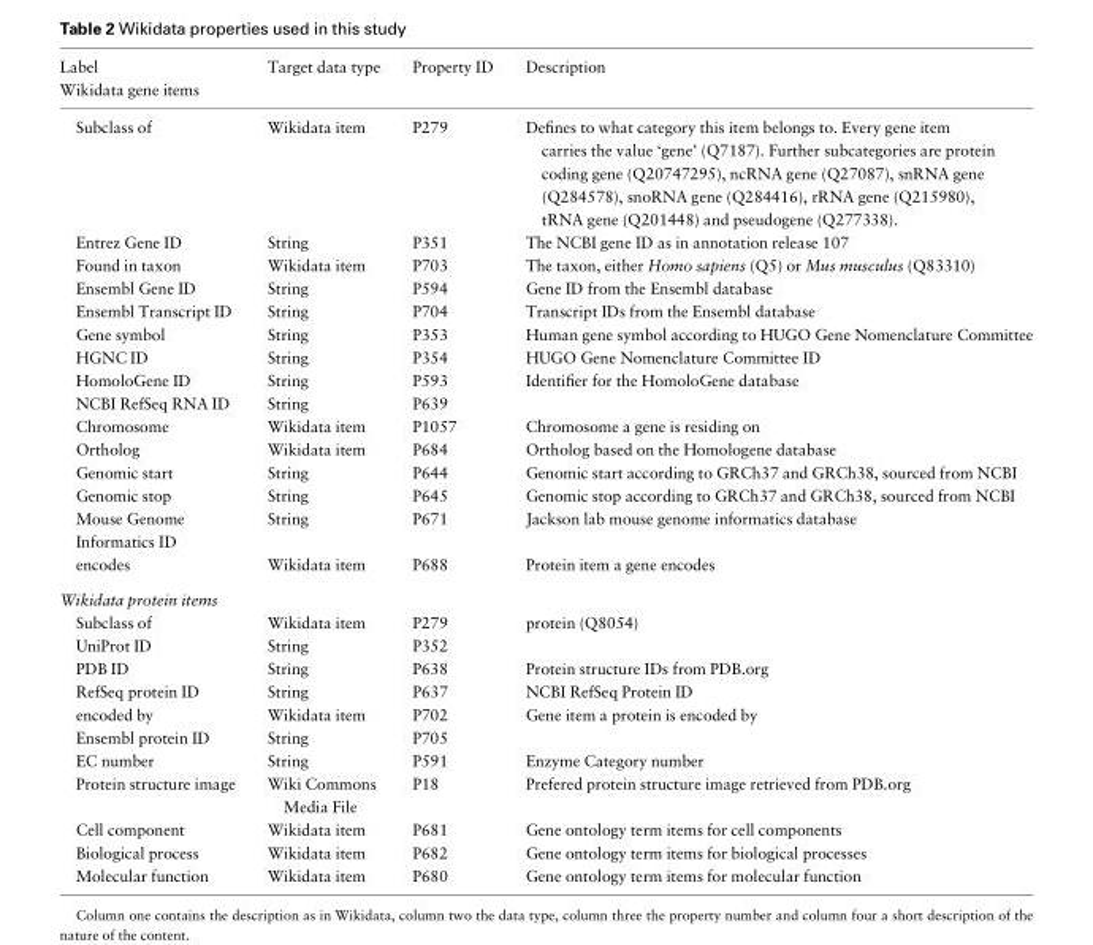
<table><thead><tr><td>Label</td><td>Target data type</td><td>Property ID</td><td>Description</td></tr><tr><td colspan="4">Wikidata gene items</td></tr></thead><tbody><tr><td>Subclass of</td><td>Wikidata item</td><td>P279</td><td>Defines to what category this item belongs to. Every gene item carries the value ‘gene’ (Q7187). Further subcategories are protein coding gene (Q20747295), ncRNA gene (Q27087), snRNA gene (Q284578), snoRNA gene (Q284416), rRNA gene (Q215980), tRNA gene (Q201448) and pseudogene (Q277338).</td></tr><tr><td>Entrez Gene ID</td><td>String</td><td>P351</td><td>The NCBI gene ID as in annotation release 107</td></tr><tr><td>Found in taxon</td><td>Wikidata item</td><td>P703</td><td>The taxon, either Homo sapiens (Q5) or Mus musculus (Q83310)</td></tr><tr><td>Ensembl Gene ID</td><td>String</td><td>P594</td><td>Gene ID from the Ensembl database</td></tr><tr><td>Ensembl Transcript ID</td><td>String</td><td>P704</td><td>Transcript IDs from the Ensembl database</td></tr><tr><td>Gene symbol</td><td>String</td><td>P353</td><td>Human gene symbol according to HUGO Gene Nomenclature Committee</td></tr><tr><td>HGNC ID</td><td>String</td><td>P354</td><td>HUGO Gene Nomenclature Committee ID</td></tr><tr><td>HomoloGene ID</td><td>String</td><td>P593</td><td>Identifier for the HomoloGene database</td></tr><tr><td>NCBI RefSeq RNA ID</td><td>String</td><td>P639</td><td></td></tr><tr><td>Chromosome</td><td>Wikidata item</td><td>P1057</td><td>Chromosome a gene is residing on</td></tr><tr><td>Ortholog</td><td>Wikidata item</td><td>P684</td><td>Ortholog based on the Homologene database</td></tr><tr><td>Genomic start</td><td>String</td><td>P644</td><td>Genomic start according to GRCh37 and GRCh38, sourced from NCBI</td></tr><tr><td>Genomic stop</td><td>String</td><td>P645</td><td>Genomic stop according to GRCh37 and GRCh38, sourced from NCBI</td></tr><tr><td>Mouse Genome Informatics ID</td><td>String</td><td>P671</td><td>Jackson lab mouse genome informatics database</td></tr><tr><td>encodes</td><td>Wikidata item</td><td>P688</td><td>Protein item a gene encodes</td></tr><tr><td colspan="4">Wikidata protein items</td></tr><tr><td>Subclass of</td><td>Wikidata item</td><td>P279</td><td>protein (Q8054)</td></tr><tr><td>UniProt ID</td><td>String</td><td>P352</td><td></td></tr><tr><td>PDB ID</td><td>String</td><td>P638</td><td>Protein structure IDs from PDB.org</td></tr><tr><td>RefSeq protein ID</td><td>String</td><td>P637</td><td>NCBI RefSeq Protein ID</td></tr><tr><td>encoded by</td><td>Wikidata item</td><td>P702</td><td>Gene item a protein is encoded by</td></tr><tr><td>Ensembl protein ID</td><td>String</td><td>P705</td><td></td></tr><tr><td>EC number</td><td>String</td><td>P591</td><td>Enzyme Category number</td></tr><tr><td>Protein structure image</td><td>Wiki Commons Media File</td><td>P18</td><td>Prefered protein structure image retrieved from PDB.org</td></tr><tr><td>Cell component</td><td>Wikidata item</td><td>P681</td><td>Gene ontology term items for cell components</td></tr><tr><td>Biological process</td><td>Wikidata item</td><td>P682</td><td>Gene ontology term items for biological processes</td></tr><tr><td>Molecular function</td><td>Wikidata item</td><td>P680</td><td>Gene ontology term items for molecular function</td></tr></tbody></table>